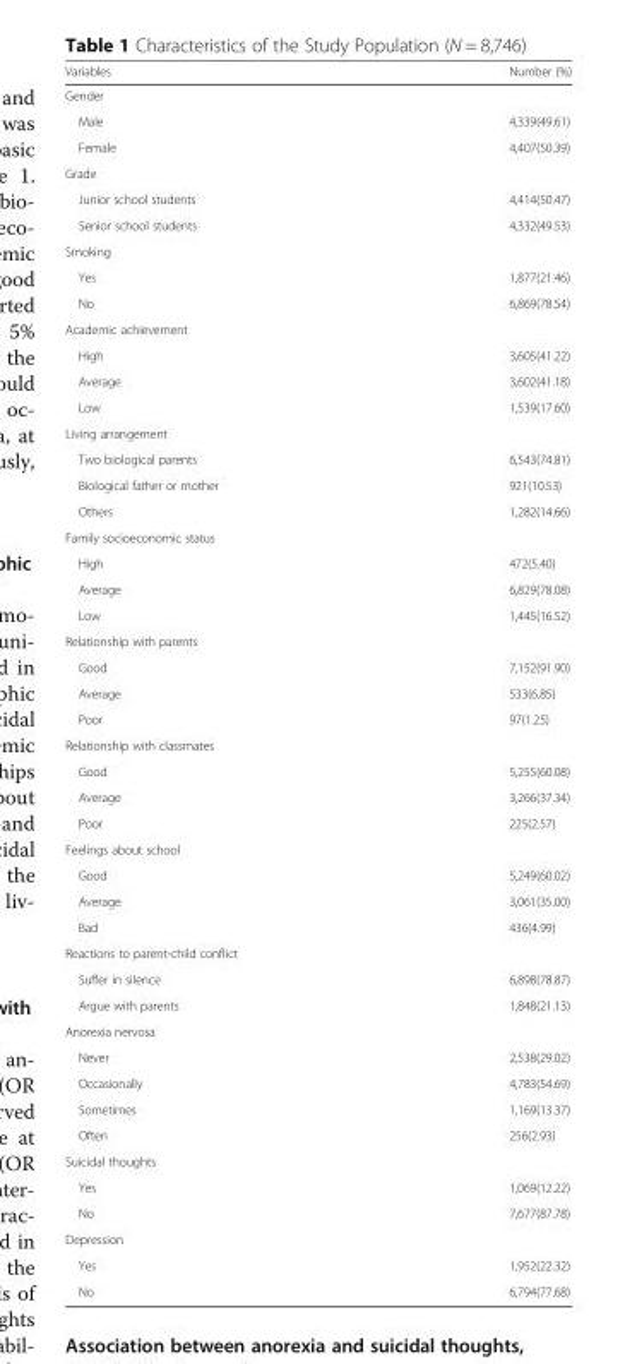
<table><thead><tr><td>Variables</td><td>Number (%)</td></tr></thead><tbody><tr><td colspan="2">Gender</td></tr><tr><td>Male</td><td>4,339(49.61)</td></tr><tr><td>Female</td><td>4,407(50.39)</td></tr><tr><td colspan="2">Grade</td></tr><tr><td>Junior school students</td><td>4,414(50.47)</td></tr><tr><td>Senior school students</td><td>4,332(49.53)</td></tr><tr><td colspan="2">Smoking</td></tr><tr><td>Yes</td><td>1,877(21.46)</td></tr><tr><td>No</td><td>6,869(78.54)</td></tr><tr><td colspan="2">Academic achievement</td></tr><tr><td>High</td><td>3,605(41.22)</td></tr><tr><td>Average</td><td>3,602(41.18)</td></tr><tr><td>Low</td><td>1,539(17.60)</td></tr><tr><td colspan="2">Living arrangement</td></tr><tr><td>Two biological parents</td><td>6,543(74.81)</td></tr><tr><td>Biological father or mother</td><td>921(10.53)</td></tr><tr><td>Others</td><td>1,282(14.66)</td></tr><tr><td colspan="2">Family socioeconomic status</td></tr><tr><td>High</td><td>472(5.40)</td></tr><tr><td>Average</td><td>6,829(78.08)</td></tr><tr><td>Low</td><td>1,445(16.52)</td></tr><tr><td colspan="2">Relationship with parents</td></tr><tr><td>Good</td><td>7,152(91.90)</td></tr><tr><td>Average</td><td>533(6.85)</td></tr><tr><td>Poor</td><td>97(1.25)</td></tr><tr><td colspan="2">Relationship with classmates</td></tr><tr><td>Good</td><td>5,255(60.08)</td></tr><tr><td>Average</td><td>3,266(37.34)</td></tr><tr><td>Poor</td><td>225(2.57)</td></tr><tr><td colspan="2">Feelings about school</td></tr><tr><td>Good</td><td>5,249(60.02)</td></tr><tr><td>Average</td><td>3,061(35.00)</td></tr><tr><td>Bad</td><td>436(4.99)</td></tr><tr><td colspan="2">Reactions to parent-child conflict</td></tr><tr><td>Suffer in silence</td><td>6,898(78.87)</td></tr><tr><td>Argue with parents</td><td>1,848(21.13)</td></tr><tr><td colspan="2">Anorexia nervosa</td></tr><tr><td>Never</td><td>2,538(29.02)</td></tr><tr><td>Occasionally</td><td>4,783(54.69)</td></tr><tr><td>Sometimes</td><td>1,169(13.37)</td></tr><tr><td>Often</td><td>256(2.93)</td></tr><tr><td colspan="2">Suicidal thoughts</td></tr><tr><td>Yes</td><td>1,069(12.22)</td></tr><tr><td>No</td><td>7,677(87.78)</td></tr><tr><td colspan="2">Depression</td></tr><tr><td>Yes</td><td>1,952(22.32)</td></tr><tr><td>No</td><td>6,794(77.68)</td></tr></tbody></table>